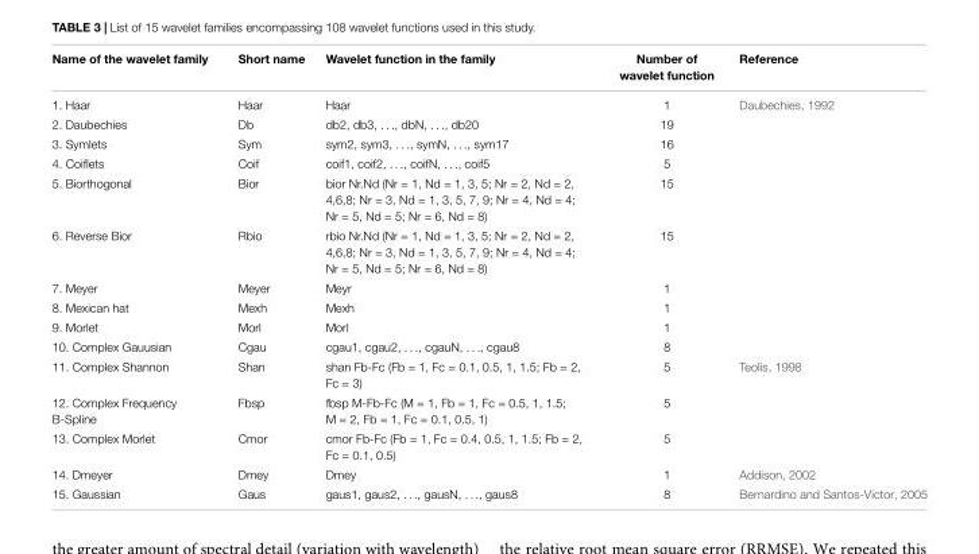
<table><thead><tr><td>Name of the wavelet family</td><td>Short name</td><td>Wavelet function in the family</td><td>Number of wavelet function</td><td>Reference</td></tr></thead><tbody><tr><td>1. Haar</td><td>Haar</td><td>Haar</td><td>1</td><td>Daubechies, 1992</td></tr><tr><td>2. Daubechies</td><td>Db</td><td>db2, db3, . . ., dbN, . . ., db20</td><td>19</td><td></td></tr><tr><td>3. Symlets</td><td>Sym</td><td>sym2, sym3, . . ., symN, . . ., sym17</td><td>16</td><td></td></tr><tr><td>4. Coiflets</td><td>Coif</td><td>coif1, coif2, . . ., coifN, . . ., coif5</td><td>5</td><td></td></tr><tr><td>5. Biorthogonal</td><td>Bior</td><td>bior Nr.Nd (Nr = 1, Nd = 1, 3, 5; Nr = 2, Nd = 2, 4,6,8; Nr = 3, Nd = 1, 3, 5, 7, 9; Nr = 4, Nd = 4; Nr = 5, Nd = 5; Nr = 6, Nd = 8)</td><td>15</td><td></td></tr><tr><td>6. Reverse Bior</td><td>Rbio</td><td>rbio Nr.Nd (Nr = 1, Nd = 1, 3, 5; Nr = 2, Nd = 2, 4,6,8; Nr = 3, Nd = 1, 3, 5, 7, 9; Nr = 4, Nd = 4; Nr = 5, Nd = 5; Nr = 6, Nd = 8)</td><td>15</td><td></td></tr><tr><td>7. Meyer</td><td>Meyer</td><td>Meyr</td><td>1</td><td></td></tr><tr><td>8. Mexican hat</td><td>Mexh</td><td>Mexh</td><td>1</td><td></td></tr><tr><td>9. Morlet</td><td>Morl</td><td>Morl</td><td>1</td><td></td></tr><tr><td>10. Complex Gauusian</td><td>Cgau</td><td>cgau1, cgau2, . . ., cgauN, . . ., cgau8</td><td>8</td><td></td></tr><tr><td>11. Complex Shannon</td><td>Shan</td><td>shan Fb-Fc (Fb = 1, Fc = 0.1, 0.5, 1, 1.5; Fb = 2, Fc = 3)</td><td>5</td><td>Teolis, 1998</td></tr><tr><td>12. Complex Frequency B-Spline</td><td>Fbsp</td><td>fbsp M-Fb-Fc (M = 1, Fb = 1, Fc = 0.5, 1, 1.5; M = 2, Fb = 1, Fc = 0.1, 0.5, 1)</td><td>5</td><td></td></tr><tr><td>13. Complex Morlet</td><td>Cmor</td><td>cmor Fb-Fc (Fb = 1, Fc = 0.4, 0.5, 1, 1.5; Fb = 2, Fc = 0.1, 0.5)</td><td>5</td><td></td></tr><tr><td>14. Dmeyer</td><td>Dmey</td><td>Dmey</td><td>1</td><td>Addison, 2002</td></tr><tr><td>15. Gaussian</td><td>Gaus</td><td>gaus1, gaus2, . . ., gausN, . . ., gaus8</td><td>8</td><td>Bernardino and Santos-Victor, 2005</td></tr></tbody></table>